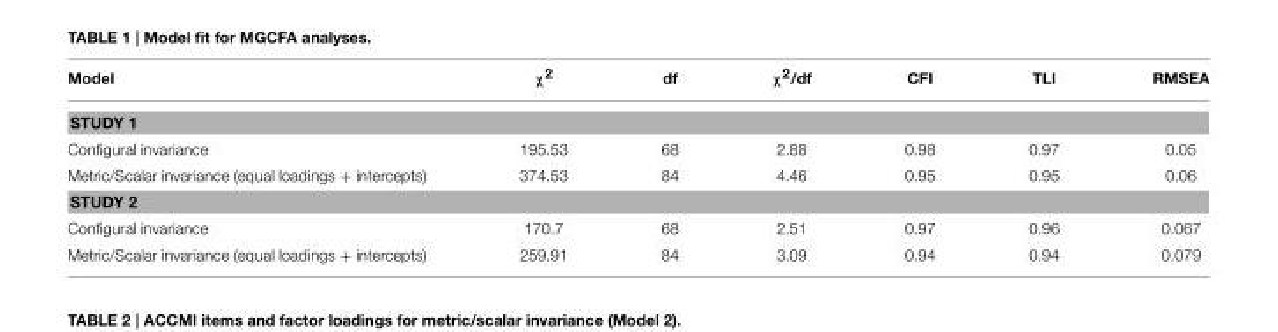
<table><thead><tr><td>Model</td><td>χ<sup>2</sup></td><td>df</td><td>χ<sup>2</sup>/df</td><td>CFI</td><td>TLI</td><td>RMSEA</td></tr></thead><tbody><tr><td colspan="7">STUDY 1</td></tr><tr><td>Configural invariance</td><td>195.53</td><td>68</td><td>2.88</td><td>0.98</td><td>0.97</td><td>0.05</td></tr><tr><td>Metric/Scalar invariance (equal loadings + intercepts)</td><td>374.53</td><td>84</td><td>4.46</td><td>0.95</td><td>0.95</td><td>0.06</td></tr><tr><td colspan="7">STUDY 2</td></tr><tr><td>Configural invariance</td><td>170.7</td><td>68</td><td>2.51</td><td>0.97</td><td>0.96</td><td>0.067</td></tr><tr><td>Metric/Scalar invariance (equal loadings + intercepts)</td><td>259.91</td><td>84</td><td>3.09</td><td>0.94</td><td>0.94</td><td>0.079</td></tr></tbody></table>